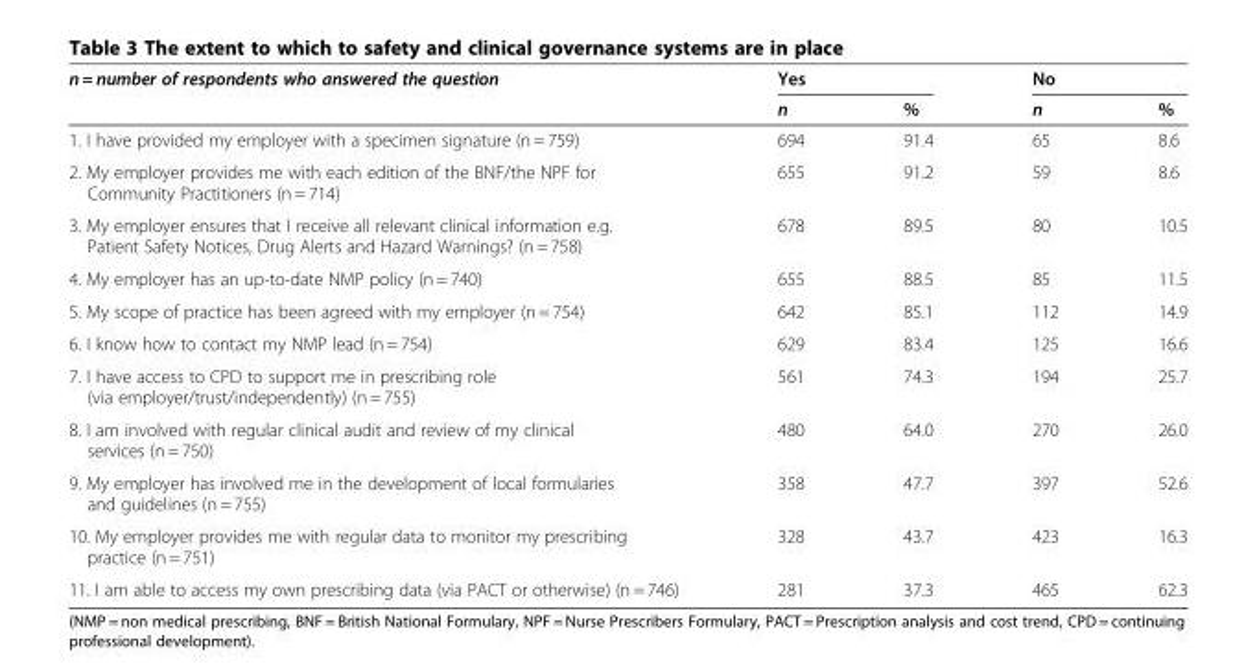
<table><thead><tr><td rowspan="2">n = number of respondents who answered the question</td><td colspan="2">Yes</td><td colspan="2">No</td></tr><tr><td>n</td><td>%</td><td>n</td><td>%</td></tr></thead><tbody><tr><td>1. I have provided my employer with a specimen signature (n = 759)</td><td>694</td><td>91.4</td><td>65</td><td>8.6</td></tr><tr><td>2. My employer provides me with each edition of the BNF/the NPF for Community Practitioners (n = 714)</td><td>655</td><td>91.2</td><td>59</td><td>8.6</td></tr><tr><td>3. My employer ensures that I receive all relevant clinical information e.g. Patient Safety Notices, Drug Alerts and Hazard Warnings? (n = 758)</td><td>678</td><td>89.5</td><td>80</td><td>10.5</td></tr><tr><td>4. My employer has an up-to-date NMP policy (n = 740)</td><td>655</td><td>88.5</td><td>85</td><td>11.5</td></tr><tr><td>5. My scope of practice has been agreed with my employer (n = 754)</td><td>642</td><td>85.1</td><td>112</td><td>14.9</td></tr><tr><td>6. I know how to contact my NMP lead (n = 754)</td><td>629</td><td>83.4</td><td>125</td><td>16.6</td></tr><tr><td>7. I have access to CPD to support me in prescribing role (via employer/trust/independently) (n = 755)</td><td>561</td><td>74.3</td><td>194</td><td>25.7</td></tr><tr><td>8. I am involved with regular clinical audit and review of my clinical services (n = 750)</td><td>480</td><td>64.0</td><td>270</td><td>26.0</td></tr><tr><td>9. My employer has involved me in the development of local formularies and guidelines (n = 755)</td><td>358</td><td>47.7</td><td>397</td><td>52.6</td></tr><tr><td>10. My employer provides me with regular data to monitor my prescribing practice (n = 751)</td><td>328</td><td>43.7</td><td>423</td><td>16.3</td></tr><tr><td>11. I am able to access my own prescribing data (via PACT or otherwise) (n = 746)</td><td>281</td><td>37.3</td><td>465</td><td>62.3</td></tr></tbody></table>